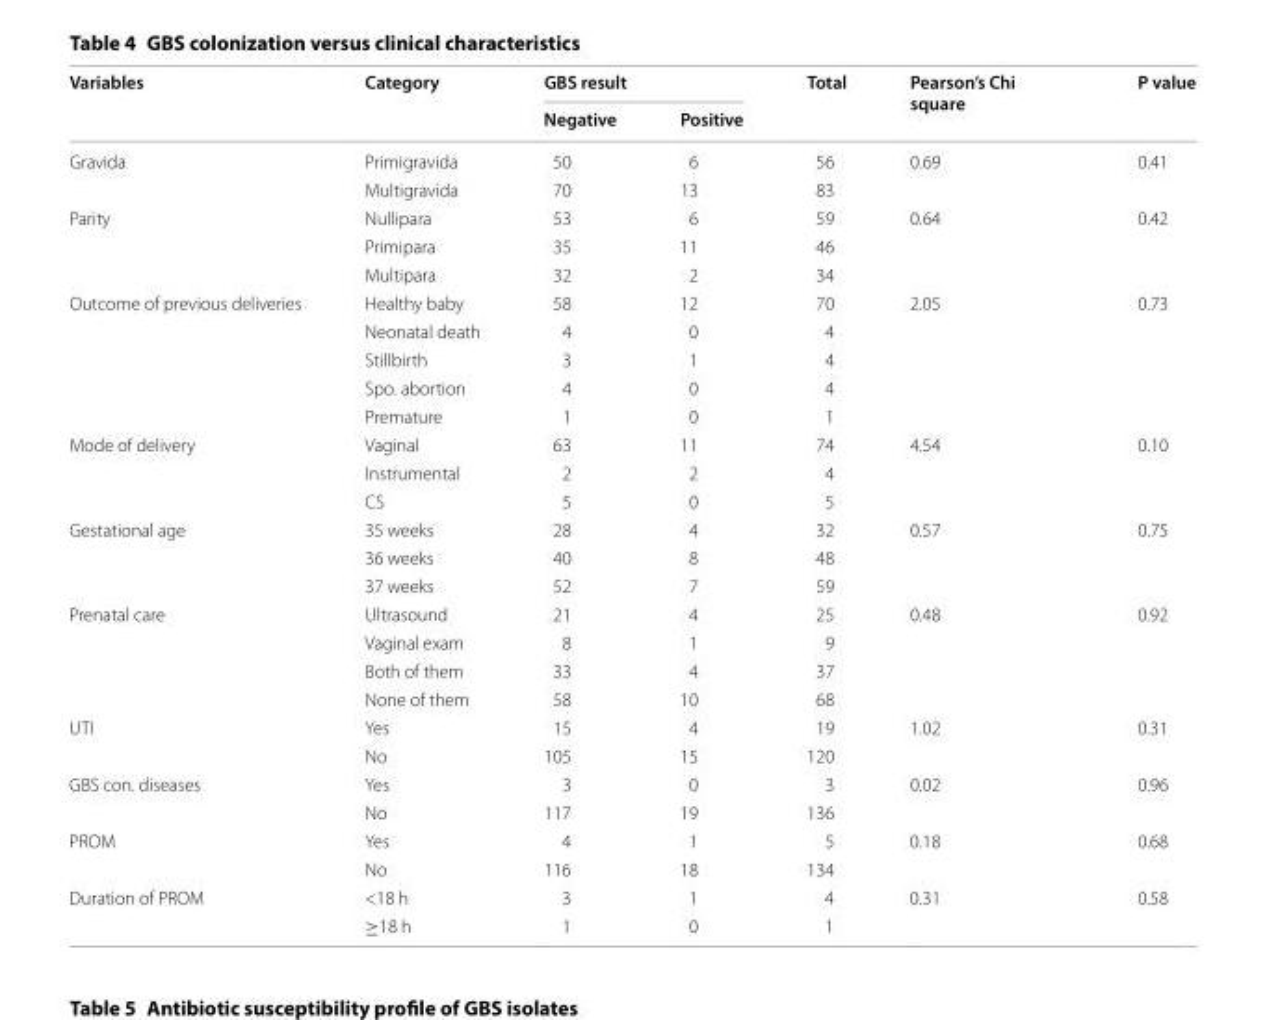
<table><thead><tr><td rowspan="2">Variables</td><td rowspan="2">Category</td><td colspan="2">GBS result</td><td rowspan="2">Total</td><td rowspan="2">Pearson’s Chi square</td><td rowspan="2">P value</td></tr><tr><td>Negative</td><td>Positive</td></tr></thead><tbody><tr><td rowspan="2">Gravida</td><td>Primigravida</td><td>50</td><td>6</td><td>56</td><td rowspan="2">0.69</td><td rowspan="2">0.41</td></tr><tr><td>Multigravida</td><td>70</td><td>13</td><td>83</td></tr><tr><td rowspan="3">Parity</td><td>Nullipara</td><td>53</td><td>6</td><td>59</td><td rowspan="3">0.64</td><td rowspan="3">0.42</td></tr><tr><td>Primipara</td><td>35</td><td>11</td><td>46</td></tr><tr><td>Multipara</td><td>32</td><td>2</td><td>34</td></tr><tr><td rowspan="5">Outcome of previous deliveries</td><td>Healthy baby</td><td>58</td><td>12</td><td>70</td><td rowspan="5">2.05</td><td rowspan="5">0.73</td></tr><tr><td>Neonatal death</td><td>4</td><td>0</td><td>4</td></tr><tr><td>Stillbirth</td><td>3</td><td>1</td><td>4</td></tr><tr><td>Spo. abortion</td><td>4</td><td>0</td><td>4</td></tr><tr><td>Premature</td><td>1</td><td>0</td><td>1</td></tr><tr><td rowspan="3">Mode of delivery</td><td>Vaginal</td><td>63</td><td>11</td><td>74</td><td rowspan="3">4.54</td><td rowspan="3">0.10</td></tr><tr><td>Instrumental</td><td>2</td><td>2</td><td>4</td></tr><tr><td>CS</td><td>5</td><td>0</td><td>5</td></tr><tr><td rowspan="3">Gestational age</td><td>35 weeks</td><td>28</td><td>4</td><td>32</td><td rowspan="3">0.57</td><td rowspan="3">0.75</td></tr><tr><td>36 weeks</td><td>40</td><td>8</td><td>48</td></tr><tr><td>37 weeks</td><td>52</td><td>7</td><td>59</td></tr><tr><td rowspan="4">Prenatal care</td><td>Ultrasound</td><td>21</td><td>4</td><td>25</td><td rowspan="4">0.48</td><td rowspan="4">0.92</td></tr><tr><td>Vaginal exam</td><td>8</td><td>1</td><td>9</td></tr><tr><td>Both of them</td><td>33</td><td>4</td><td>37</td></tr><tr><td>None of them</td><td>58</td><td>10</td><td>68</td></tr><tr><td rowspan="2">UTI</td><td>Yes</td><td>15</td><td>4</td><td>19</td><td rowspan="2">1.02</td><td rowspan="2">0.31</td></tr><tr><td>No</td><td>105</td><td>15</td><td>120</td></tr><tr><td rowspan="2">GBS con. diseases</td><td>Yes</td><td>3</td><td>0</td><td>3</td><td rowspan="2">0.02</td><td rowspan="2">0.96</td></tr><tr><td>No</td><td>117</td><td>19</td><td>136</td></tr><tr><td rowspan="2">PROM</td><td>Yes</td><td>4</td><td>1</td><td>5</td><td rowspan="2">0.18</td><td rowspan="2">0.68</td></tr><tr><td>No</td><td>116</td><td>18</td><td>134</td></tr><tr><td rowspan="2">Duration of PROM</td><td>&lt;18 h</td><td>3</td><td>1</td><td>4</td><td rowspan="2">0.31</td><td rowspan="2">0.58</td></tr><tr><td>≥18 h</td><td>1</td><td>0</td><td>1</td></tr></tbody></table>